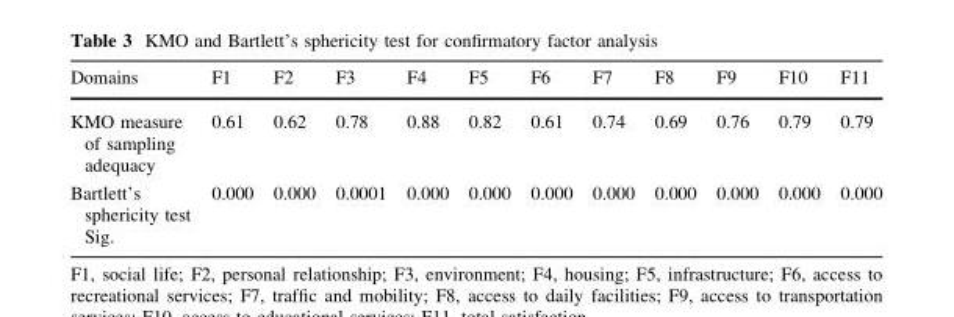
<table><thead><tr><td>Domains</td><td>F1</td><td>F2</td><td>F3</td><td>F4</td><td>F5</td><td>F6</td><td>F7</td><td>F8</td><td>F9</td><td>F10</td><td>F11</td></tr></thead><tbody><tr><td>KMO measure of sampling adequacy</td><td>0.61</td><td>0.62</td><td>0.78</td><td>0.88</td><td>0.82</td><td>0.61</td><td>0.74</td><td>0.69</td><td>0.76</td><td>0.79</td><td>0.79</td></tr><tr><td>Bartlett’s sphericity test Sig.</td><td>0.000</td><td>0.000</td><td>0.0001</td><td>0.000</td><td>0.000</td><td>0.000</td><td>0.000</td><td>0.000</td><td>0.000</td><td>0.000</td><td>0.000</td></tr></tbody></table>